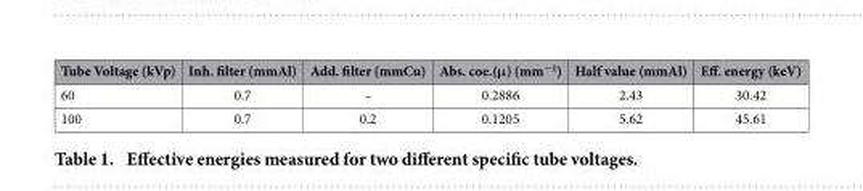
<table><thead><tr><td>Tube Voltage (kVp)</td><td>Inh. filter (mmAl)</td><td>Add. filter (mmCu)</td><td>Abs. coe.(μ) (mm<sup>−1</sup>)</td><td>Half value (mmAl)</td><td>Eff. energy (keV)</td></tr></thead><tbody><tr><td>60</td><td>0.7</td><td>–</td><td>0.2886</td><td>2.43</td><td>30.42</td></tr><tr><td>100</td><td>0.7</td><td>0.2</td><td>0.1205</td><td>5.62</td><td>45.61</td></tr></tbody></table>